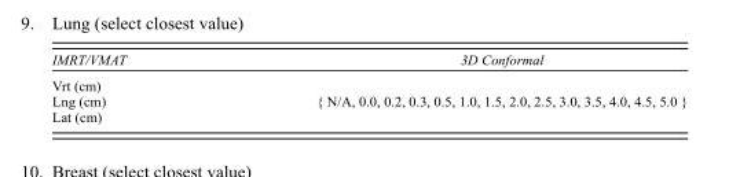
<table><thead><tr><td>IMRT/VMAT</td><td>3D Conformal</td></tr></thead><tbody><tr><td colspan="2">Vrt (cm)</td></tr><tr><td>Lng (cm)</td><td>{ N/A, 0.0, 0.2, 0.3, 0.5, 1.0, 1.5, 2.0, 2.5, 3.0, 3.5, 4.0, 4.5, 5.0 }</td></tr><tr><td>Lat (cm)</td><td></td></tr></tbody></table>